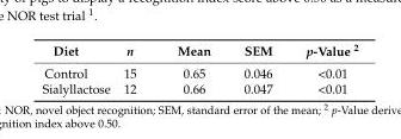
<table><thead><tr><td>Diet</td><td>n</td><td>Mean</td><td>SEM</td><td>p-Value <sup>2</sup></td></tr></thead><tbody><tr><td>Control</td><td>15</td><td>0.65</td><td>0.046</td><td>&lt;0.01</td></tr><tr><td>Sialyllactose</td><td>12</td><td>0.66</td><td>0.047</td><td>&lt;0.01</td></tr></tbody></table>